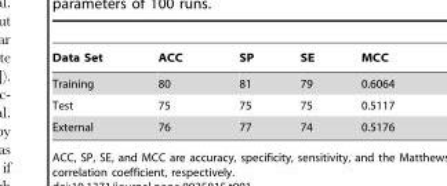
<table><thead><tr><td>Data Set</td><td>ACC</td><td>SP</td><td>SE</td><td>MCC</td></tr></thead><tbody><tr><td>Training</td><td>80</td><td>81</td><td>79</td><td>0.6064</td></tr><tr><td>Test</td><td>75</td><td>75</td><td>75</td><td>0.5117</td></tr><tr><td>External</td><td>76</td><td>77</td><td>74</td><td>0.5176</td></tr></tbody></table>